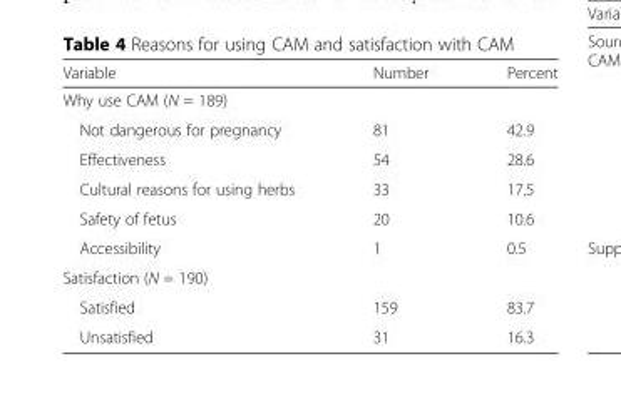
<table><thead><tr><td>Variable</td><td>Number</td><td>Percent</td></tr></thead><tbody><tr><td colspan="3">Why use CAM (N = 189)</td></tr><tr><td>Not dangerous for pregnancy</td><td>81</td><td>42.9</td></tr><tr><td>Effectiveness</td><td>54</td><td>28.6</td></tr><tr><td>Cultural reasons for using herbs</td><td>33</td><td>17.5</td></tr><tr><td>Safety of fetus</td><td>20</td><td>10.6</td></tr><tr><td>Accessibility</td><td>1</td><td>0.5</td></tr><tr><td colspan="3">Satisfaction (N = 190)</td></tr><tr><td>Satisfied</td><td>159</td><td>83.7</td></tr><tr><td>Unsatisfied</td><td>31</td><td>16.3</td></tr></tbody></table>